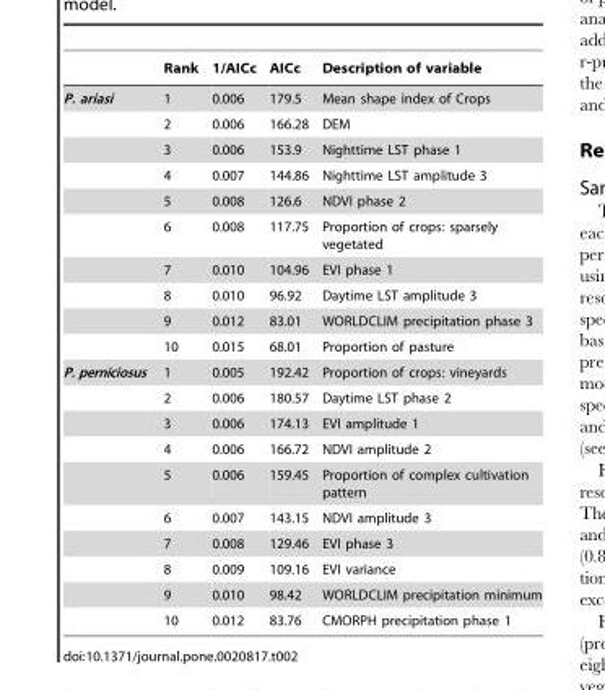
<table><thead><tr><td></td><td>Rank</td><td>1/AICc</td><td>AICc</td><td>Description of variable</td></tr></thead><tbody><tr><td rowspan="10">P. ariasi</td><td>1</td><td>0.006</td><td>179.5</td><td>Mean shape index of Crops</td></tr><tr><td>2</td><td>0.006</td><td>166.28</td><td>DEM</td></tr><tr><td>3</td><td>0.006</td><td>153.9</td><td>Nighttime LST phase 1</td></tr><tr><td>4</td><td>0.007</td><td>144.86</td><td>Nighttime LST amplitude 3</td></tr><tr><td>5</td><td>0.008</td><td>126.6</td><td>NDVI phase 2</td></tr><tr><td>6</td><td>0.008</td><td>117.75</td><td>Proportion of crops: sparsely vegetated</td></tr><tr><td>7</td><td>0.010</td><td>104.96</td><td>EVI phase 1</td></tr><tr><td>8</td><td>0.010</td><td>96.92</td><td>Daytime LST amplitude 3</td></tr><tr><td>9</td><td>0.012</td><td>83.01</td><td>WORLDCLIM precipitation phase 3</td></tr><tr><td>10</td><td>0.015</td><td>68.01</td><td>Proportion of pasture</td></tr><tr><td rowspan="10">P. perniciosus</td><td>1</td><td>0.005</td><td>192.42</td><td>Proportion of crops: vineyards</td></tr><tr><td>2</td><td>0.006</td><td>180.57</td><td>Daytime LST phase 2</td></tr><tr><td>3</td><td>0.006</td><td>174.13</td><td>EVI amplitude 1</td></tr><tr><td>4</td><td>0.006</td><td>166.72</td><td>NDVI amplitude 2</td></tr><tr><td>5</td><td>0.006</td><td>159.45</td><td>Proportion of complex cultivation pattern</td></tr><tr><td>6</td><td>0.007</td><td>143.15</td><td>NDVI amplitude 3</td></tr><tr><td>7</td><td>0.008</td><td>129.46</td><td>EVI phase 3</td></tr><tr><td>8</td><td>0.009</td><td>109.16</td><td>EVI variance</td></tr><tr><td>9</td><td>0.010</td><td>98.42</td><td>WORLDCLIM precipitation minimum</td></tr><tr><td>10</td><td>0.012</td><td>83.76</td><td>CMORPH precipitation phase 1</td></tr></tbody></table>